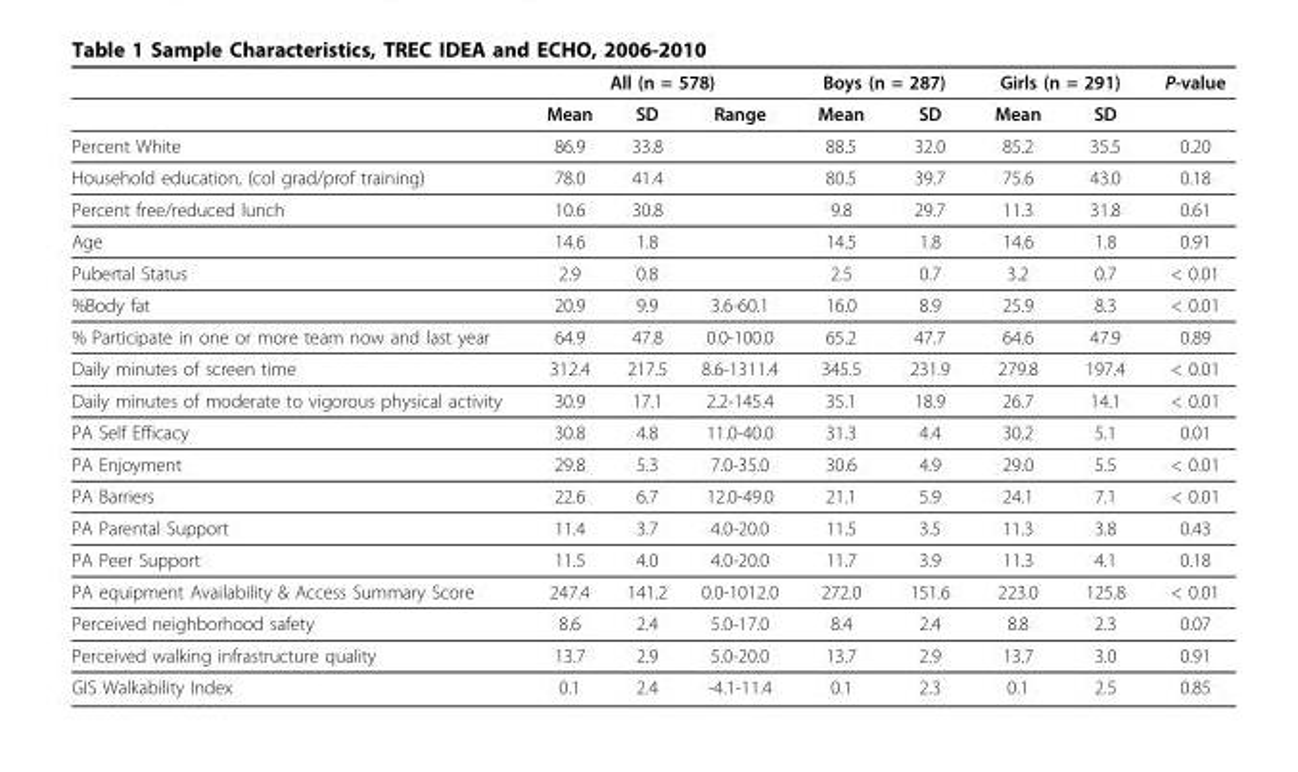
<table><thead><tr><td rowspan="2"></td><td colspan="3">All (n = 578)</td><td colspan="2">Boys (n = 287)</td><td colspan="2">Girls (n = 291)</td><td rowspan="2">P-value</td></tr><tr><td>Mean</td><td>SD</td><td>Range</td><td>Mean</td><td>SD</td><td>Mean</td><td>SD</td></tr></thead><tbody><tr><td>Percent White</td><td>86.9</td><td>33.8</td><td></td><td>88.5</td><td>32.0</td><td>85.2</td><td>35.5</td><td>0.20</td></tr><tr><td>Household education, (col grad/prof training)</td><td>78.0</td><td>41.4</td><td></td><td>80.5</td><td>39.7</td><td>75.6</td><td>43.0</td><td>0.18</td></tr><tr><td>Percent free/reduced lunch</td><td>10.6</td><td>30.8</td><td></td><td>9.8</td><td>29.7</td><td>11.3</td><td>31.8</td><td>0.61</td></tr><tr><td>Age</td><td>14.6</td><td>1.8</td><td></td><td>14.5</td><td>1.8</td><td>14.6</td><td>1.8</td><td>0.91</td></tr><tr><td>Pubertal Status</td><td>2.9</td><td>0.8</td><td></td><td>2.5</td><td>0.7</td><td>3.2</td><td>0.7</td><td>&lt; 0.01</td></tr><tr><td>%Body fat</td><td>20.9</td><td>9.9</td><td>3.6-60.1</td><td>16.0</td><td>8.9</td><td>25.9</td><td>8.3</td><td>&lt; 0.01</td></tr><tr><td>% Participate in one or more team now and last year</td><td>64.9</td><td>47.8</td><td>0.0-100.0</td><td>65.2</td><td>47.7</td><td>64.6</td><td>47.9</td><td>0.89</td></tr><tr><td>Daily minutes of screen time</td><td>312.4</td><td>217.5</td><td>8.6-1311.4</td><td>345.5</td><td>231.9</td><td>279.8</td><td>197.4</td><td>&lt; 0.01</td></tr><tr><td>Daily minutes of moderate to vigorous physical activity</td><td>30.9</td><td>17.1</td><td>2.2-145.4</td><td>35.1</td><td>18.9</td><td>26.7</td><td>14.1</td><td>&lt; 0.01</td></tr><tr><td>PA Self Efficacy</td><td>30.8</td><td>4.8</td><td>11.0-40.0</td><td>31.3</td><td>4.4</td><td>30.2</td><td>5.1</td><td>0.01</td></tr><tr><td>PA Enjoyment</td><td>29.8</td><td>5.3</td><td>7.0-35.0</td><td>30.6</td><td>4.9</td><td>29.0</td><td>5.5</td><td>&lt; 0.01</td></tr><tr><td>PA Barriers</td><td>22.6</td><td>6.7</td><td>12.0-49.0</td><td>21.1</td><td>5.9</td><td>24.1</td><td>7.1</td><td>&lt; 0.01</td></tr><tr><td>PA Parental Support</td><td>11.4</td><td>3.7</td><td>4.0-20.0</td><td>11.5</td><td>3.5</td><td>11.3</td><td>3.8</td><td>0.43</td></tr><tr><td>PA Peer Support</td><td>11.5</td><td>4.0</td><td>4.0-20.0</td><td>11.7</td><td>3.9</td><td>11.3</td><td>4.1</td><td>0.18</td></tr><tr><td>PA equipment Availability &amp; Access Summary Score</td><td>247.4</td><td>141.2</td><td>0.0-1012.0</td><td>272.0</td><td>151.6</td><td>223.0</td><td>125.8</td><td>&lt; 0.01</td></tr><tr><td>Perceived neighborhood safety</td><td>8.6</td><td>2.4</td><td>5.0-17.0</td><td>8.4</td><td>2.4</td><td>8.8</td><td>2.3</td><td>0.07</td></tr><tr><td>Perceived walking infrastructure quality</td><td>13.7</td><td>2.9</td><td>5.0-20.0</td><td>13.7</td><td>2.9</td><td>13.7</td><td>3.0</td><td>0.91</td></tr><tr><td>GIS Walkability Index</td><td>0.1</td><td>2.4</td><td>-4.1-11.4</td><td>0.1</td><td>2.3</td><td>0.1</td><td>2.5</td><td>0.85</td></tr></tbody></table>